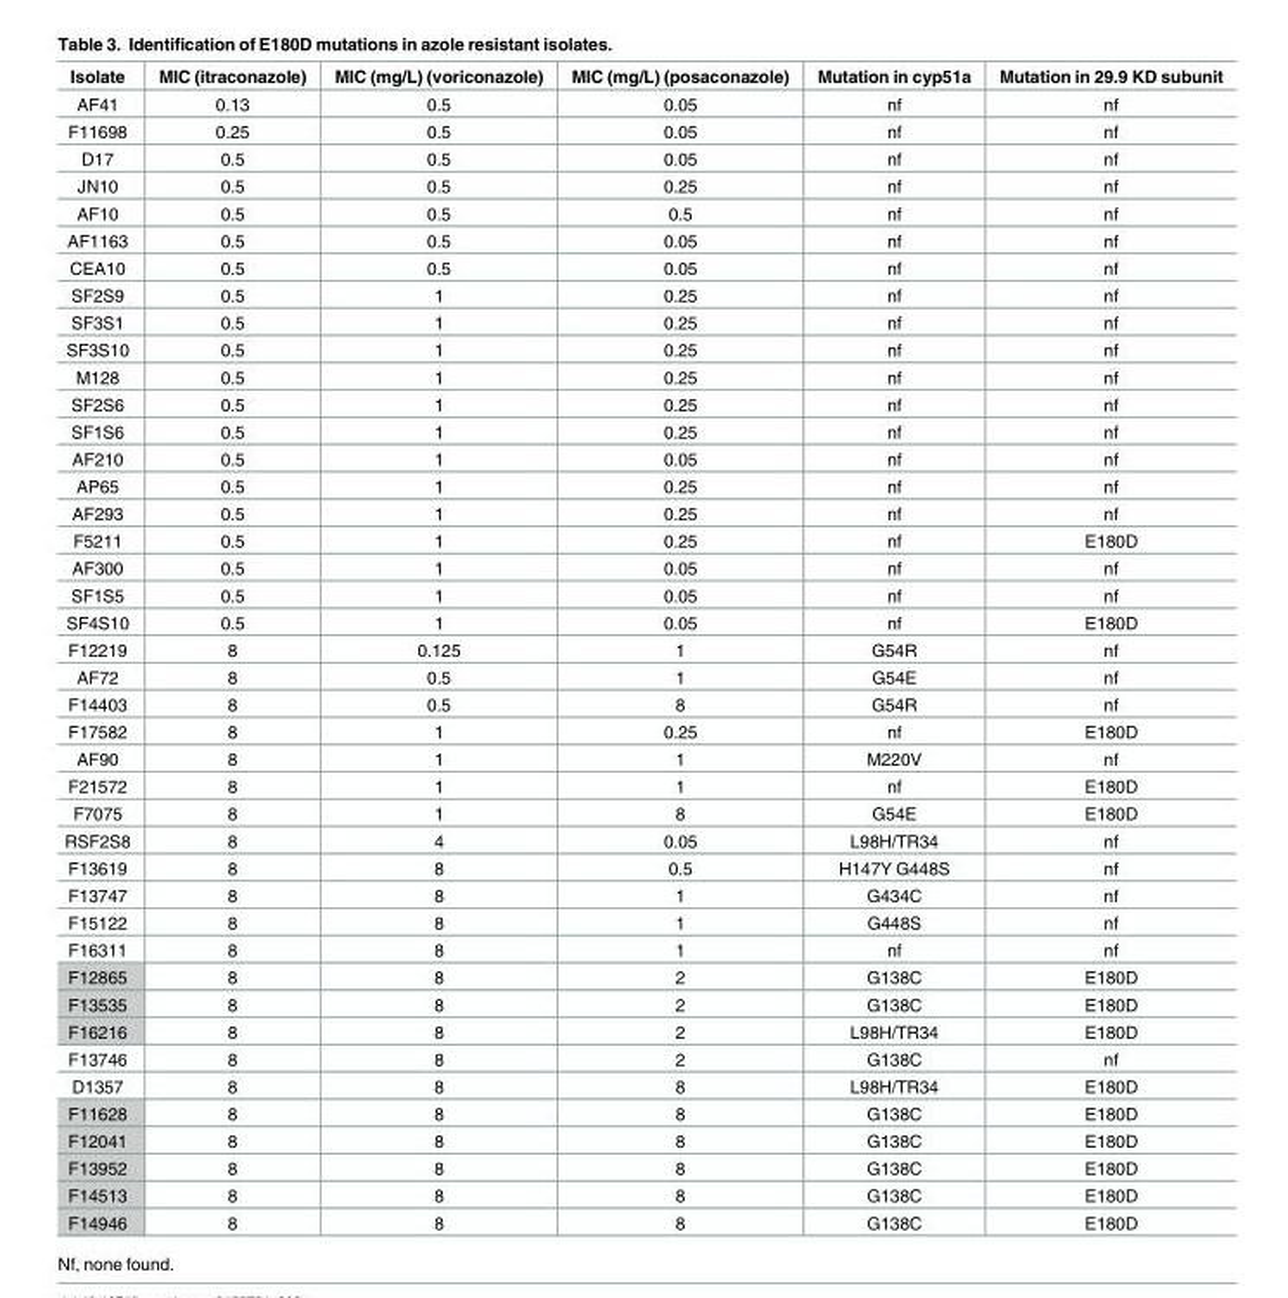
<table><thead><tr><td>Isolate</td><td>MIC (itraconazole)</td><td>MIC (mg/L) (voriconazole)</td><td>MIC (mg/L) (posaconazole)</td><td>Mutation in cyp51a</td><td>Mutation in 29.9 KD subunit</td></tr></thead><tbody><tr><td>AF41</td><td>0.13</td><td>0.5</td><td>0.05</td><td>nf</td><td>nf</td></tr><tr><td>F11698</td><td>0.25</td><td>0.5</td><td>0.05</td><td>nf</td><td>nf</td></tr><tr><td>D17</td><td>0.5</td><td>0.5</td><td>0.05</td><td>nf</td><td>nf</td></tr><tr><td>JN10</td><td>0.5</td><td>0.5</td><td>0.25</td><td>nf</td><td>nf</td></tr><tr><td>AF10</td><td>0.5</td><td>0.5</td><td>0.5</td><td>nf</td><td>nf</td></tr><tr><td>AF1163</td><td>0.5</td><td>0.5</td><td>0.05</td><td>nf</td><td>nf</td></tr><tr><td>CEA10</td><td>0.5</td><td>0.5</td><td>0.05</td><td>nf</td><td>nf</td></tr><tr><td>SF2S9</td><td>0.5</td><td>1</td><td>0.25</td><td>nf</td><td>nf</td></tr><tr><td>SF3S1</td><td>0.5</td><td>1</td><td>0.25</td><td>nf</td><td>nf</td></tr><tr><td>SF3S10</td><td>0.5</td><td>1</td><td>0.25</td><td>nf</td><td>nf</td></tr><tr><td>M128</td><td>0.5</td><td>1</td><td>0.25</td><td>nf</td><td>nf</td></tr><tr><td>SF2S6</td><td>0.5</td><td>1</td><td>0.25</td><td>nf</td><td>nf</td></tr><tr><td>SF1S6</td><td>0.5</td><td>1</td><td>0.25</td><td>nf</td><td>nf</td></tr><tr><td>AF210</td><td>0.5</td><td>1</td><td>0.05</td><td>nf</td><td>nf</td></tr><tr><td>AP65</td><td>0.5</td><td>1</td><td>0.25</td><td>nf</td><td>nf</td></tr><tr><td>AF293</td><td>0.5</td><td>1</td><td>0.25</td><td>nf</td><td>nf</td></tr><tr><td>F5211</td><td>0.5</td><td>1</td><td>0.25</td><td>nf</td><td>E180D</td></tr><tr><td>AF300</td><td>0.5</td><td>1</td><td>0.05</td><td>nf</td><td>nf</td></tr><tr><td>SF1S5</td><td>0.5</td><td>1</td><td>0.05</td><td>nf</td><td>nf</td></tr><tr><td>SF4S10</td><td>0.5</td><td>1</td><td>0.05</td><td>nf</td><td>E180D</td></tr><tr><td>F12219</td><td>8</td><td>0.125</td><td>1</td><td>G54R</td><td>nf</td></tr><tr><td>AF72</td><td>8</td><td>0.5</td><td>1</td><td>G54E</td><td>nf</td></tr><tr><td>F14403</td><td>8</td><td>0.5</td><td>8</td><td>G54R</td><td>nf</td></tr><tr><td>F17582</td><td>8</td><td>1</td><td>0.25</td><td>nf</td><td>E180D</td></tr><tr><td>AF90</td><td>8</td><td>1</td><td>1</td><td>M220V</td><td>nf</td></tr><tr><td>F21572</td><td>8</td><td>1</td><td>1</td><td>nf</td><td>E180D</td></tr><tr><td>F7075</td><td>8</td><td>1</td><td>8</td><td>G54E</td><td>E180D</td></tr><tr><td>RSF2S8</td><td>8</td><td>4</td><td>0.05</td><td>L98H/TR34</td><td>nf</td></tr><tr><td>F13619</td><td>8</td><td>8</td><td>0.5</td><td>H147Y G448S</td><td>nf</td></tr><tr><td>F13747</td><td>8</td><td>8</td><td>1</td><td>G434C</td><td>nf</td></tr><tr><td>F15122</td><td>8</td><td>8</td><td>1</td><td>G448S</td><td>nf</td></tr><tr><td>F16311</td><td>8</td><td>8</td><td>1</td><td>nf</td><td>nf</td></tr><tr><td>F12865</td><td>8</td><td>8</td><td>2</td><td>G138C</td><td>E180D</td></tr><tr><td>F13535</td><td>8</td><td>8</td><td>2</td><td>G138C</td><td>E180D</td></tr><tr><td>F16216</td><td>8</td><td>8</td><td>2</td><td>L98H/TR34</td><td>E180D</td></tr><tr><td>F13746</td><td>8</td><td>8</td><td>2</td><td>G138C</td><td>nf</td></tr><tr><td>D1357</td><td>8</td><td>8</td><td>8</td><td>L98H/TR34</td><td>E180D</td></tr><tr><td>F11628</td><td>8</td><td>8</td><td>8</td><td>G138C</td><td>E180D</td></tr><tr><td>F12041</td><td>8</td><td>8</td><td>8</td><td>G138C</td><td>E180D</td></tr><tr><td>F13952</td><td>8</td><td>8</td><td>8</td><td>G138C</td><td>E180D</td></tr><tr><td>F14513</td><td>8</td><td>8</td><td>8</td><td>G138C</td><td>E180D</td></tr><tr><td>F14946</td><td>8</td><td>8</td><td>8</td><td>G138C</td><td>E180D</td></tr></tbody></table>